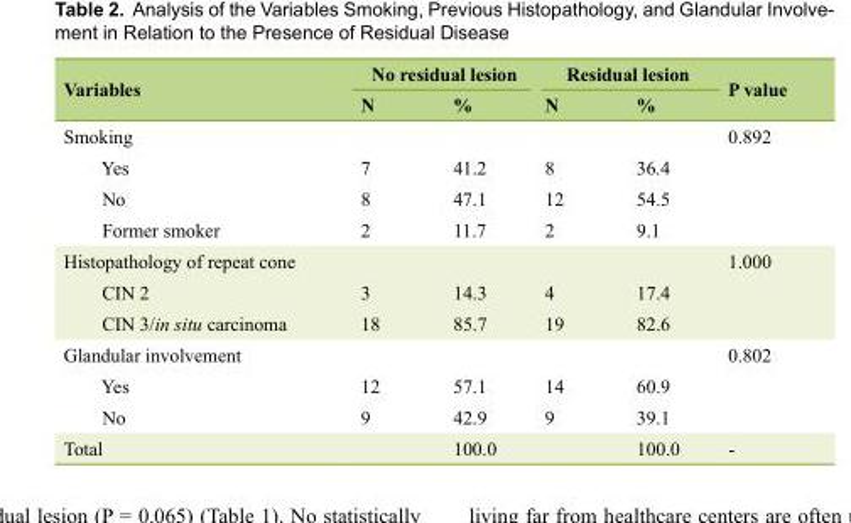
<table><thead><tr><td rowspan="2">Variables</td><td colspan="2">No residual lesion</td><td colspan="2">Residual lesion</td><td rowspan="2">P value</td></tr><tr><td>N</td><td>%</td><td>N</td><td>%</td></tr></thead><tbody><tr><td colspan="5">Smoking</td><td rowspan="4">0.892</td></tr><tr><td>Yes</td><td>7</td><td>41.2</td><td>8</td><td>36.4</td></tr><tr><td>No</td><td>8</td><td>47.1</td><td>12</td><td>54.5</td></tr><tr><td>Former smoker</td><td>2</td><td>11.7</td><td>2</td><td>9.1</td></tr><tr><td colspan="5">Histopathology of repeat cone</td><td rowspan="3">1.000</td></tr><tr><td>CIN 2</td><td>3</td><td>14.3</td><td>4</td><td>17.4</td></tr><tr><td>CIN 3/in situ carcinoma</td><td>18</td><td>85.7</td><td>19</td><td>82.6</td></tr><tr><td colspan="5">Glandular involvement</td><td rowspan="3">0.802</td></tr><tr><td>Yes</td><td>12</td><td>57.1</td><td>14</td><td>60.9</td></tr><tr><td>No</td><td>9</td><td>42.9</td><td>9</td><td>39.1</td></tr><tr><td>Total</td><td></td><td>100.0</td><td></td><td>100.0</td><td>-</td></tr></tbody></table>